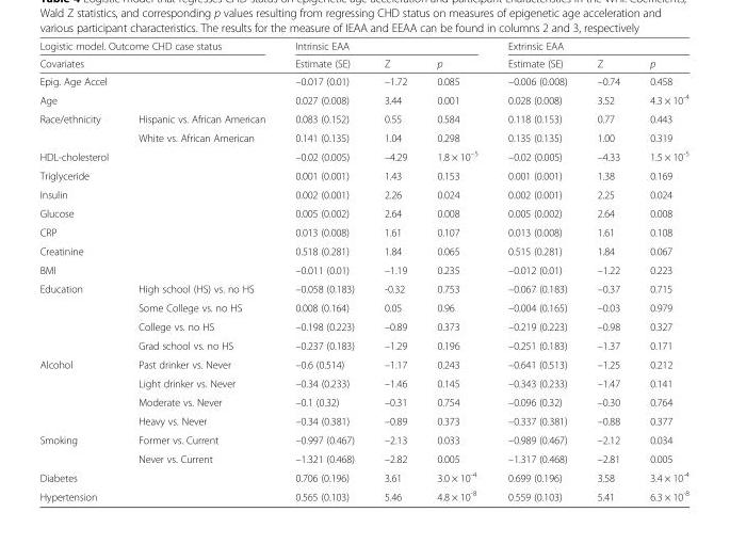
<table><thead><tr><td colspan="2">Logistic model. Outcome CHD case status</td><td colspan="3">Intrinsic EAA</td><td colspan="3">Extrinsic EAA</td></tr><tr><td>Covariates</td><td></td><td>Estimate (SE)</td><td>Z</td><td>p</td><td>Estimate (SE)</td><td>Z</td><td>p</td></tr></thead><tbody><tr><td>Epig. Age Accel</td><td></td><td>–0.017 (0.01)</td><td>–1.72</td><td>0.085</td><td>–0.006 (0.008)</td><td>–0.74</td><td>0.458</td></tr><tr><td>Age</td><td></td><td>0.027 (0.008)</td><td>3.44</td><td>0.001</td><td>0.028 (0.008)</td><td>3.52</td><td>4.3 × 10<sup>-4</sup></td></tr><tr><td rowspan="2">Race/ethnicity</td><td>Hispanic vs. African American</td><td>0.083 (0.152)</td><td>0.55</td><td>0.584</td><td>0.118 (0.153)</td><td>0.77</td><td>0.443</td></tr><tr><td>White vs. African American</td><td>0.141 (0.135)</td><td>1.04</td><td>0.298</td><td>0.135 (0.135)</td><td>1.00</td><td>0.319</td></tr><tr><td>HDL-cholesterol</td><td></td><td>–0.02 (0.005)</td><td>–4.29</td><td>1.8 × 10<sup>–5</sup></td><td>–0.02 (0.005)</td><td>–4.33</td><td>1.5 × 10<sup>-5</sup></td></tr><tr><td>Triglyceride</td><td></td><td>0.001 (0.001)</td><td>1.43</td><td>0.153</td><td>0.001 (0.001)</td><td>1.38</td><td>0.169</td></tr><tr><td>Insulin</td><td></td><td>0.002 (0.001)</td><td>2.26</td><td>0.024</td><td>0.002 (0.001)</td><td>2.25</td><td>0.024</td></tr><tr><td>Glucose</td><td></td><td>0.005 (0.002)</td><td>2.64</td><td>0.008</td><td>0.005 (0.002)</td><td>2.64</td><td>0.008</td></tr><tr><td>CRP</td><td></td><td>0.013 (0.008)</td><td>1.61</td><td>0.107</td><td>0.013 (0.008)</td><td>1.61</td><td>0.108</td></tr><tr><td>Creatinine</td><td></td><td>0.518 (0.281)</td><td>1.84</td><td>0.065</td><td>0.515 (0.281)</td><td>1.84</td><td>0.067</td></tr><tr><td>BMI</td><td></td><td>–0.011 (0.01)</td><td>–1.19</td><td>0.235</td><td>–0.012 (0.01)</td><td>–1.22</td><td>0.223</td></tr><tr><td rowspan="4">Education</td><td>High school (HS) vs. no HS</td><td>–0.058 (0.183)</td><td>-0.32</td><td>0.753</td><td>–0.067 (0.183)</td><td>–0.37</td><td>0.715</td></tr><tr><td>Some College vs. no HS</td><td>0.008 (0.164)</td><td>0.05</td><td>0.96</td><td>–0.004 (0.165)</td><td>–0.03</td><td>0.979</td></tr><tr><td>College vs. no HS</td><td>–0.198 (0.223)</td><td>–0.89</td><td>0.373</td><td>–0.219 (0.223)</td><td>–0.98</td><td>0.327</td></tr><tr><td>Grad school vs. no HS</td><td>–0.237 (0.183)</td><td>–1.29</td><td>0.196</td><td>–0.251 (0.183)</td><td>–1.37</td><td>0.171</td></tr><tr><td rowspan="4">Alcohol</td><td>Past drinker vs. Never</td><td>–0.6 (0.514)</td><td>–1.17</td><td>0.243</td><td>–0.641 (0.513)</td><td>–1.25</td><td>0.212</td></tr><tr><td>Light drinker vs. Never</td><td>–0.34 (0.233)</td><td>–1.46</td><td>0.145</td><td>–0.343 (0.233)</td><td>–1.47</td><td>0.141</td></tr><tr><td>Moderate vs. Never</td><td>–0.1 (0.32)</td><td>–0.31</td><td>0.754</td><td>–0.096 (0.32)</td><td>–0.30</td><td>0.764</td></tr><tr><td>Heavy vs. Never</td><td>–0.34 (0.381)</td><td>–0.89</td><td>0.373</td><td>–0.337 (0.381)</td><td>–0.88</td><td>0.377</td></tr><tr><td rowspan="2">Smoking</td><td>Former vs. Current</td><td>–0.997 (0.467)</td><td>–2.13</td><td>0.033</td><td>–0.989 (0.467)</td><td>–2.12</td><td>0.034</td></tr><tr><td>Never vs. Current</td><td>–1.321 (0.468)</td><td>–2.82</td><td>0.005</td><td>–1.317 (0.468)</td><td>–2.81</td><td>0.005</td></tr><tr><td>Diabetes</td><td></td><td>0.706 (0.196)</td><td>3.61</td><td>3.0 × 10<sup>-4</sup></td><td>0.699 (0.196)</td><td>3.58</td><td>3.4 × 10<sup>-4</sup></td></tr><tr><td>Hypertension</td><td></td><td>0.565 (0.103)</td><td>5.46</td><td>4.8 × 10<sup>-8</sup></td><td>0.559 (0.103)</td><td>5.41</td><td>6.3 × 10<sup>-8</sup></td></tr></tbody></table>